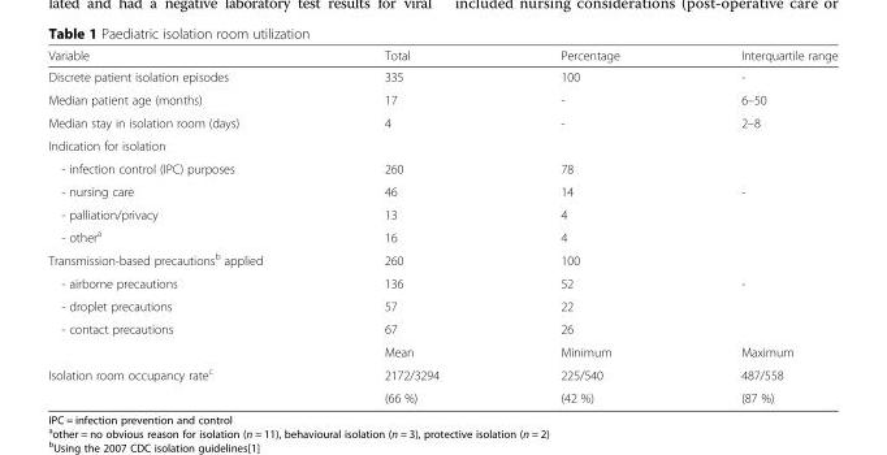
<table><thead><tr><td>Variable</td><td>Total</td><td>Percentage</td><td>Interquartile range</td></tr></thead><tbody><tr><td>Discrete patient isolation episodes</td><td>335</td><td>100</td><td>-</td></tr><tr><td>Median patient age (months)</td><td>17</td><td>-</td><td>6–50</td></tr><tr><td>Median stay in isolation room (days)</td><td>4</td><td>-</td><td>2–8</td></tr><tr><td colspan="4">Indication for isolation</td></tr><tr><td>- infection control (IPC) purposes</td><td>260</td><td>78</td><td></td></tr><tr><td>- nursing care</td><td>46</td><td>14</td><td>-</td></tr><tr><td>- palliation/privacy</td><td>13</td><td>4</td><td></td></tr><tr><td>- other<sup>a</sup></td><td>16</td><td>4</td><td></td></tr><tr><td>Transmission-based precautions<sup>b</sup> applied</td><td>260</td><td>100</td><td></td></tr><tr><td>- airborne precautions</td><td>136</td><td>52</td><td>-</td></tr><tr><td>- droplet precautions</td><td>57</td><td>22</td><td></td></tr><tr><td rowspan="2">- contact precautions</td><td>67</td><td>26</td><td></td></tr><tr><td>Mean</td><td>Minimum</td><td>Maximum</td></tr><tr><td rowspan="2">Isolation room occupancy rate<sup>c</sup></td><td>2172/3294</td><td>225/540</td><td>487/558</td></tr><tr><td>(66 %)</td><td>(42 %)</td><td>(87 %)</td></tr></tbody></table>